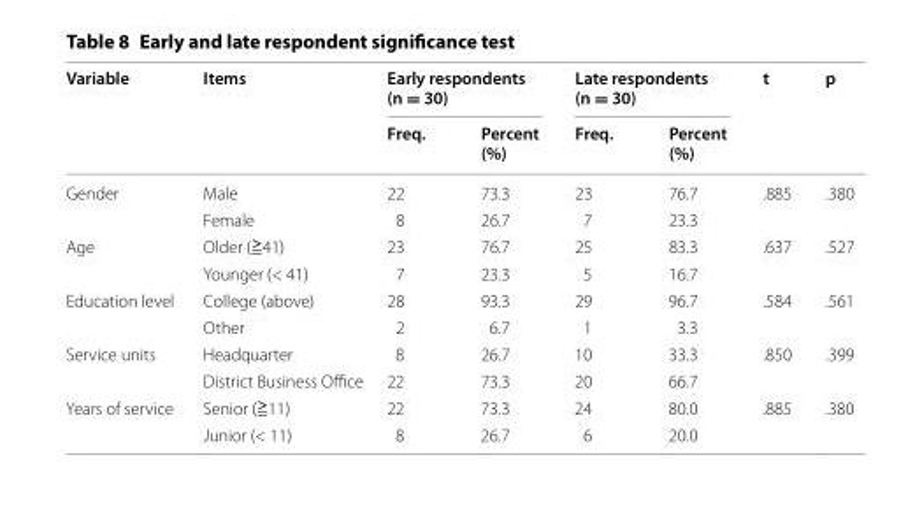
<table><thead><tr><td rowspan="2">Variable</td><td rowspan="2">Items</td><td colspan="2">Early respondents (n = 30)</td><td colspan="2">Late respondents (n = 30)</td><td rowspan="2">t</td><td rowspan="2">p</td></tr><tr><td>Freq.</td><td>Percent (%)</td><td>Freq.</td><td>Percent (%)</td></tr></thead><tbody><tr><td rowspan="2">Gender</td><td>Male</td><td>22</td><td>73.3</td><td>23</td><td>76.7</td><td rowspan="2">.885</td><td rowspan="2">.380</td></tr><tr><td>Female</td><td>8</td><td>26.7</td><td>7</td><td>23.3</td></tr><tr><td rowspan="2">Age</td><td>Older (≧41)</td><td>23</td><td>76.7</td><td>25</td><td>83.3</td><td rowspan="2">.637</td><td rowspan="2">.527</td></tr><tr><td>Younger (&lt; 41)</td><td>7</td><td>23.3</td><td>5</td><td>16.7</td></tr><tr><td rowspan="2">Education level</td><td>College (above)</td><td>28</td><td>93.3</td><td>29</td><td>96.7</td><td rowspan="2">.584</td><td rowspan="2">.561</td></tr><tr><td>Other</td><td>2</td><td>6.7</td><td>1</td><td>3.3</td></tr><tr><td rowspan="2">Service units</td><td>Headquarter</td><td>8</td><td>26.7</td><td>10</td><td>33.3</td><td rowspan="2">.850</td><td rowspan="2">.399</td></tr><tr><td>District Business Office</td><td>22</td><td>73.3</td><td>20</td><td>66.7</td></tr><tr><td rowspan="2">Years of service</td><td>Senior (≧11)</td><td>22</td><td>73.3</td><td>24</td><td>80.0</td><td rowspan="2">.885</td><td rowspan="2">.380</td></tr><tr><td>Junior (&lt; 11)</td><td>8</td><td>26.7</td><td>6</td><td>20.0</td></tr></tbody></table>